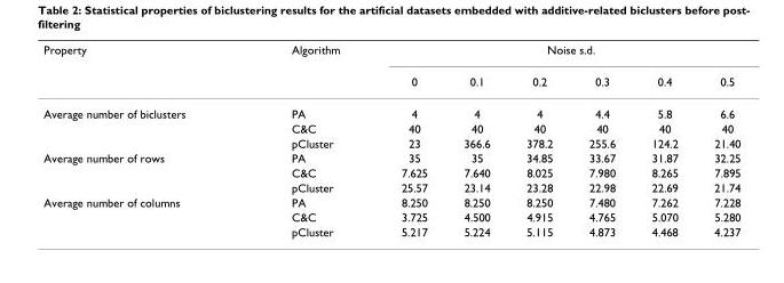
<table><thead><tr><td rowspan="2">Property</td><td rowspan="2">Algorithm</td><td colspan="6">Noise s.d.</td></tr><tr><td>0</td><td>0.1</td><td>0.2</td><td>0.3</td><td>0.4</td><td>0.5</td></tr></thead><tbody><tr><td rowspan="3">Average number of biclusters</td><td>PA</td><td>4</td><td>4</td><td>4</td><td>4.4</td><td>5.8</td><td>6.6</td></tr><tr><td>C&amp;C</td><td>40</td><td>40</td><td>40</td><td>40</td><td>40</td><td>40</td></tr><tr><td>pCluster</td><td>23</td><td>366.6</td><td>378.2</td><td>255.6</td><td>124.2</td><td>21.40</td></tr><tr><td rowspan="3">Average number of rows</td><td>PA</td><td>35</td><td>35</td><td>34.85</td><td>33.67</td><td>31.87</td><td>32.25</td></tr><tr><td>C&amp;C</td><td>7.625</td><td>7.640</td><td>8.025</td><td>7.980</td><td>8.265</td><td>7.895</td></tr><tr><td>pCluster</td><td>25.57</td><td>23.14</td><td>23.28</td><td>22.98</td><td>22.69</td><td>21.74</td></tr><tr><td rowspan="3">Average number of columns</td><td>PA</td><td>8.250</td><td>8.250</td><td>8.250</td><td>7.480</td><td>7.262</td><td>7.228</td></tr><tr><td>C&amp;C</td><td>3.725</td><td>4.500</td><td>4.915</td><td>4.765</td><td>5.070</td><td>5.280</td></tr><tr><td>pCluster</td><td>5.217</td><td>5.224</td><td>5.115</td><td>4.873</td><td>4.468</td><td>4.237</td></tr></tbody></table>